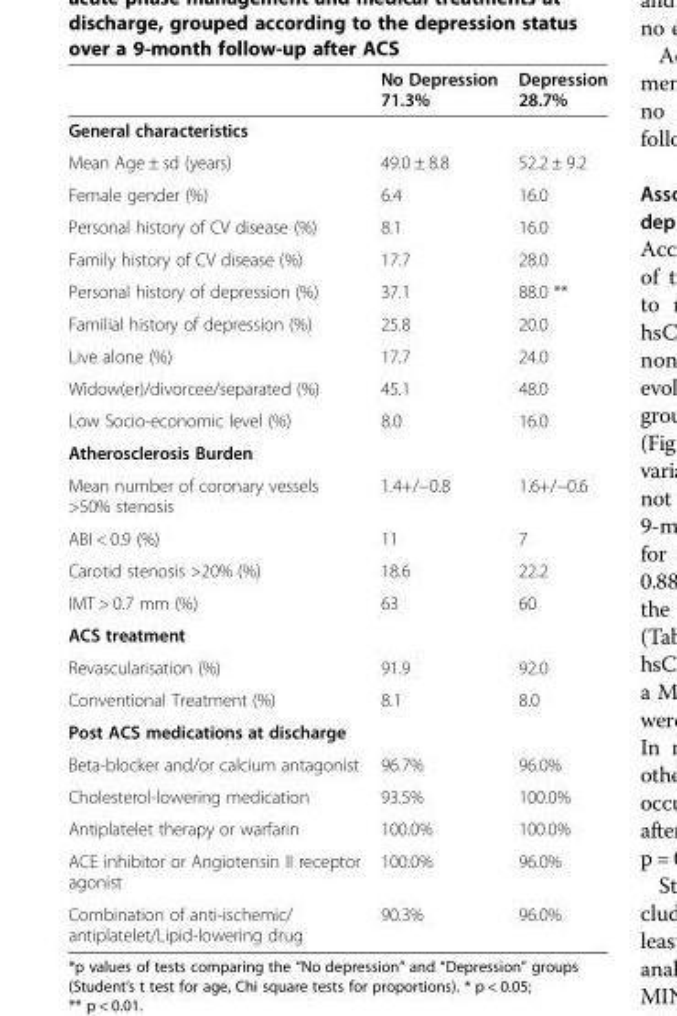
<table><thead><tr><td></td><td>No Depression 71.3%</td><td>Depression 28.7%</td></tr></thead><tbody><tr><td colspan="3">General characteristics</td></tr><tr><td>Mean Age ± sd (years)</td><td>49.0 ± 8.8</td><td>52.2 ± 9.2</td></tr><tr><td>Female gender (%)</td><td>6.4</td><td>16.0</td></tr><tr><td>Personal history of CV disease (%)</td><td>8.1</td><td>16.0</td></tr><tr><td>Family history of CV disease (%)</td><td>17.7</td><td>28.0</td></tr><tr><td>Personal history of depression (%)</td><td>37.1</td><td>88.0 **</td></tr><tr><td>Familial history of depression (%)</td><td>25.8</td><td>20.0</td></tr><tr><td>Live alone (%)</td><td>17.7</td><td>24.0</td></tr><tr><td>Widow(er)/divorcee/separated (%)</td><td>45.1</td><td>48.0</td></tr><tr><td>Low Socio-economic level (%)</td><td>8.0</td><td>16.0</td></tr><tr><td colspan="3">Atherosclerosis Burden</td></tr><tr><td>Mean number of coronary vessels &gt;50% stenosis</td><td>1.4+/−0.8</td><td>1.6+/−0.6</td></tr><tr><td>ABI &lt; 0.9 (%)</td><td>11</td><td>7</td></tr><tr><td>Carotid stenosis &gt;20% (%)</td><td>18.6</td><td>22.2</td></tr><tr><td>IMT &gt; 0.7 mm (%)</td><td>63</td><td>60</td></tr><tr><td colspan="3">ACS treatment</td></tr><tr><td>Revascularisation (%)</td><td>91.9</td><td>92.0</td></tr><tr><td>Conventional Treatment (%)</td><td>8.1</td><td>8.0</td></tr><tr><td colspan="3">Post ACS medications at discharge</td></tr><tr><td>Beta-blocker and/or calcium antagonist</td><td>96.7%</td><td>96.0%</td></tr><tr><td>Cholesterol-lowering medication</td><td>93.5%</td><td>100.0%</td></tr><tr><td>Antiplatelet therapy or warfarin</td><td>100.0%</td><td>100.0%</td></tr><tr><td>ACE inhibitor or Angiotensin II receptor agonist</td><td>100.0%</td><td>96.0%</td></tr><tr><td>Combination of anti-ischemic/ antiplatelet/Lipid-lowering drug</td><td>90.3%</td><td>96.0%</td></tr></tbody></table>